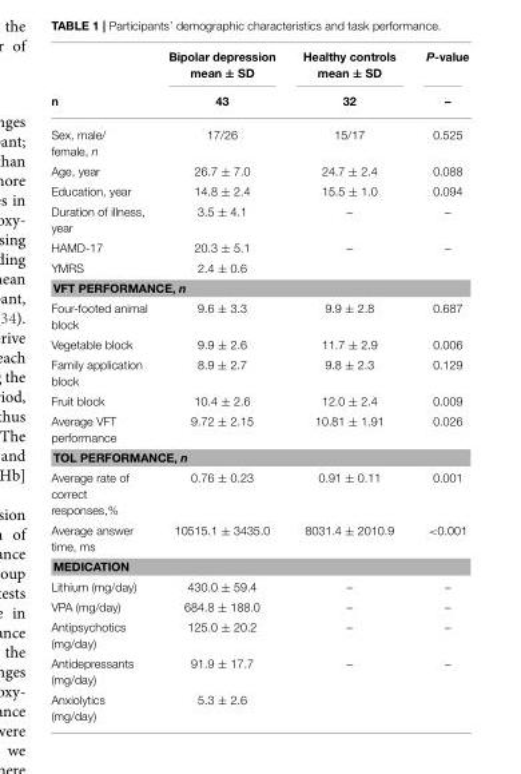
<table><thead><tr><td rowspan="2">n</td><td rowspan="2">Bipolar depression mean ± SD 43</td><td rowspan="2">Healthy controls mean ± SD 32</td><td rowspan="2">P-value –</td></tr><tr></tr></thead><tbody><tr><td>Sex, male/ female, n</td><td>17/26</td><td>15/17</td><td>0.525</td></tr><tr><td>Age, year</td><td>26.7 ± 7.0</td><td>24.7 ± 2.4</td><td>0.088</td></tr><tr><td>Education, year</td><td>14.8 ± 2.4</td><td>15.5 ± 1.0</td><td>0.094</td></tr><tr><td>Duration of illness, year</td><td>3.5 ± 4.1</td><td>–</td><td>–</td></tr><tr><td>HAMD-17</td><td>20.3 ± 5.1</td><td>–</td><td>–</td></tr><tr><td>YMRS</td><td>2.4 ± 0.6</td><td></td><td></td></tr><tr><td colspan="4">VFT PERFORMANCE, n</td></tr><tr><td>Four-footed animal block</td><td>9.6 ± 3.3</td><td>9.9 ± 2.8</td><td>0.687</td></tr><tr><td>Vegetable block</td><td>9.9 ± 2.6</td><td>11.7 ± 2.9</td><td>0.006</td></tr><tr><td>Family application block</td><td>8.9 ± 2.7</td><td>9.8 ± 2.3</td><td>0.129</td></tr><tr><td>Fruit block</td><td>10.4 ± 2.6</td><td>12.0 ± 2.4</td><td>0.009</td></tr><tr><td>Average VFT performance</td><td>9.72 ± 2.15</td><td>10.81 ± 1.91</td><td>0.026</td></tr><tr><td colspan="4">TOL PERFORMANCE, n</td></tr><tr><td>Average rate of correct responses,%</td><td>0.76 ± 0.23</td><td>0.91 ± 0.11</td><td>0.001</td></tr><tr><td>Average answer time, ms</td><td>10515.1 ± 3435.0</td><td>8031.4 ± 2010.9</td><td>&lt;0.001</td></tr><tr><td colspan="4">MEDICATION</td></tr><tr><td>Lithium (mg/day)</td><td>430.0 ± 59.4</td><td>–</td><td>–</td></tr><tr><td>VPA (mg/day)</td><td>684.8 ± 188.0</td><td>–</td><td>–</td></tr><tr><td>Antipsychotics (mg/day)</td><td>125.0 ± 20.2</td><td>–</td><td>–</td></tr><tr><td>Antidepressants (mg/day)</td><td>91.9 ± 17.7</td><td>–</td><td>–</td></tr><tr><td>Anxiolytics (mg/day)</td><td>5.3 ± 2.6</td><td></td><td></td></tr></tbody></table>